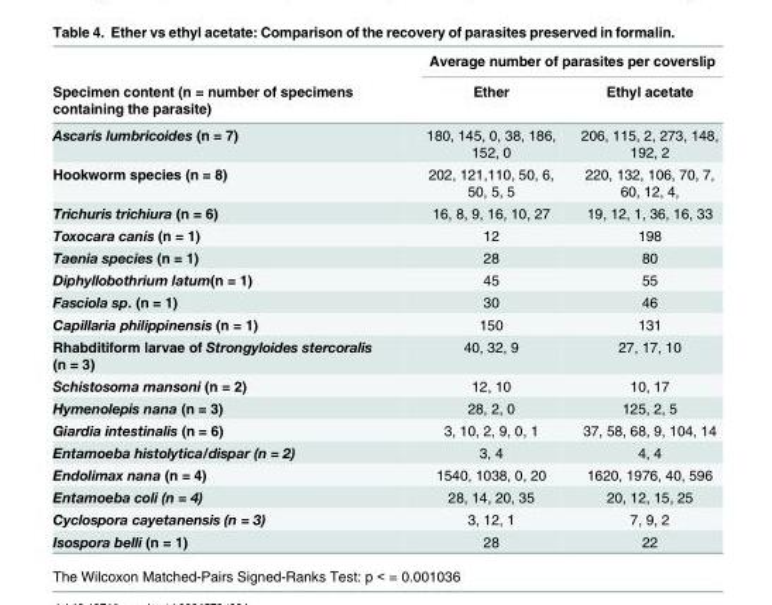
<table><thead><tr><td rowspan="2">Specimen content (n = number of specimens containing the parasite)</td><td colspan="2">Average number of parasites per coverslip</td></tr><tr><td>Ether</td><td>Ethyl acetate</td></tr></thead><tbody><tr><td>Ascaris lumbricoides (n = 7)</td><td>180, 145, 0, 38, 186, 152, 0</td><td>206, 115, 2, 273, 148, 192, 2</td></tr><tr><td>Hookworm species (n = 8)</td><td>202, 121,110, 50, 6, 50, 5, 5</td><td>220, 132, 106, 70, 7, 60, 12, 4,</td></tr><tr><td>Trichuris trichiura (n = 6)</td><td>16, 8, 9, 16, 10, 27</td><td>19, 12, 1, 36, 16, 33</td></tr><tr><td>Toxocara canis (n = 1)</td><td>12</td><td>198</td></tr><tr><td>Taenia species (n = 1)</td><td>28</td><td>80</td></tr><tr><td>Diphyllobothrium latum(n = 1)</td><td>45</td><td>55</td></tr><tr><td>Fasciola sp. (n = 1)</td><td>30</td><td>46</td></tr><tr><td>Capillaria philippinensis (n = 1)</td><td>150</td><td>131</td></tr><tr><td>Rhabditiform larvae of Strongyloides stercoralis (n = 3)</td><td>40, 32, 9</td><td>27, 17, 10</td></tr><tr><td>Schistosoma mansoni (n = 2)</td><td>12, 10</td><td>10, 17</td></tr><tr><td>Hymenolepis nana (n = 3)</td><td>28, 2, 0</td><td>125, 2, 5</td></tr><tr><td>Giardia intestinalis (n = 6)</td><td>3, 10, 2, 9, 0, 1</td><td>37, 58, 68, 9, 104, 14</td></tr><tr><td>Entamoeba histolytica/dispar (n = 2)</td><td>3, 4</td><td>4, 4</td></tr><tr><td>Endolimax nana (n = 4)</td><td>1540, 1038, 0, 20</td><td>1620, 1976, 40, 596</td></tr><tr><td>Entamoeba coli (n = 4)</td><td>28, 14, 20, 35</td><td>20, 12, 15, 25</td></tr><tr><td>Cyclospora cayetanensis (n = 3)</td><td>3, 12, 1</td><td>7, 9, 2</td></tr><tr><td>Isospora belli (n = 1)</td><td>28</td><td>22</td></tr></tbody></table>